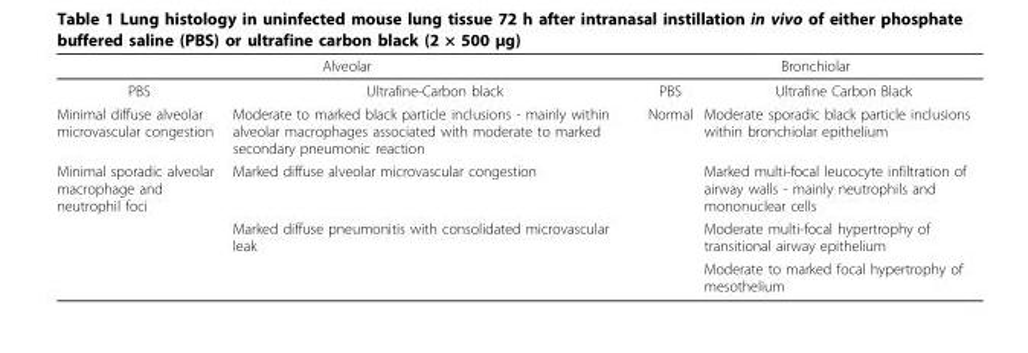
<table><thead><tr><td colspan="2">Alveolar</td><td colspan="2">Bronchiolar</td></tr><tr><td>PBS</td><td>Ultrafine-Carbon black</td><td>PBS</td><td>Ultrafine Carbon Black</td></tr></thead><tbody><tr><td>Minimal diffuse alveolar microvascular congestion</td><td>Moderate to marked black particle inclusions - mainly within alveolar macrophages associated with moderate to marked secondary pneumonic reaction</td><td>Normal</td><td>Moderate sporadic black particle inclusions within bronchiolar epithelium</td></tr><tr><td rowspan="3">Minimal sporadic alveolar macrophage and neutrophil foci</td><td>Marked diffuse alveolar microvascular congestion</td><td></td><td>Marked multi-focal leucocyte infiltration of airway walls - mainly neutrophils and mononuclear cells</td></tr><tr><td>Marked diffuse pneumonitis with consolidated microvascular leak</td><td></td><td>Moderate multi-focal hypertrophy of transitional airway epithelium</td></tr><tr><td></td><td></td><td>Moderate to marked focal hypertrophy of mesothelium</td></tr></tbody></table>